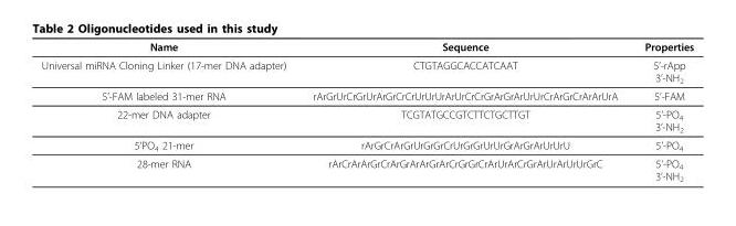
<table><thead><tr><td>Name</td><td>Sequence</td><td>Properties</td></tr></thead><tbody><tr><td>Universal miRNA Cloning Linker (17-mer DNA adapter)</td><td>CTGTAGGCACCATCAAT</td><td>5’-rApp 3’-NH<sub>2</sub></td></tr><tr><td>5’-FAM labeled 31-mer RNA</td><td>rArGrUrCrGrUrArGrCrCrUrUrUrArUrCrCrGrArGrArUrUrCrArGrCrArArUrA</td><td>5’-FAM</td></tr><tr><td>22-mer DNA adapter</td><td>TCGTATGCCGTCTTCTGCTTGT</td><td>5’-PO<sub>4</sub> 3’-NH<sub>2</sub></td></tr><tr><td>5’PO<sub>4</sub> 21-mer</td><td>rArGrCrArGrUrGrGrCrUrGrGrUrUrGrArGrArUrUrU</td><td>5’-PO<sub>4</sub></td></tr><tr><td>28-mer RNA</td><td>rArCrArArGrCrArGrArArGrArCrGrGrCrArUrArCrGrArUrArUrUrGrC</td><td>5’-PO<sub>4</sub> 3’-NH<sub>2</sub></td></tr></tbody></table>